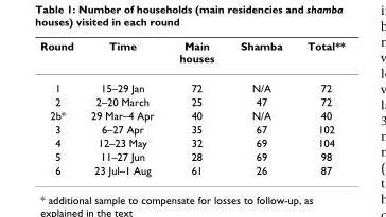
<table><thead><tr><td>Round</td><td>Time</td><td>Main houses</td><td>Shamba</td><td>Total**</td></tr></thead><tbody><tr><td>1</td><td>15–29 Jan</td><td>72</td><td>N/A</td><td>72</td></tr><tr><td>2</td><td>2–20 March</td><td>25</td><td>47</td><td>72</td></tr><tr><td>2b*</td><td>29 Mar–4 Apr</td><td>40</td><td>N/A</td><td>40</td></tr><tr><td>3</td><td>6–27 Apr</td><td>35</td><td>67</td><td>102</td></tr><tr><td>4</td><td>12–23 May</td><td>32</td><td>69</td><td>104</td></tr><tr><td>5</td><td>11–27 Jun</td><td>28</td><td>69</td><td>98</td></tr><tr><td>6</td><td>23 Jul–1 Aug</td><td>61</td><td>26</td><td>87</td></tr></tbody></table>